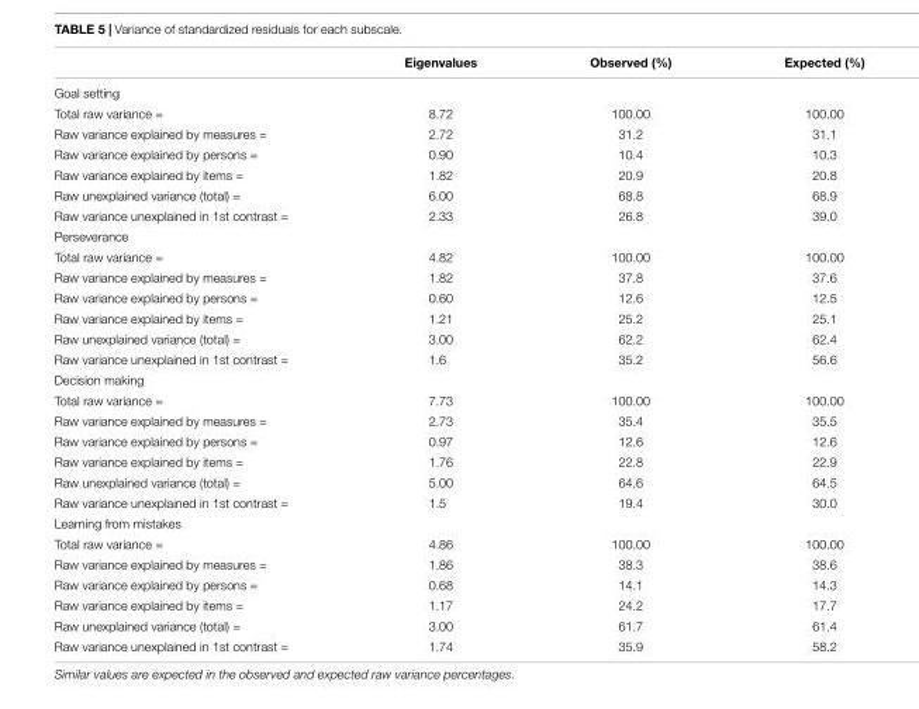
<table><thead><tr><td></td><td>Eigenvalues</td><td>Observed (%)</td><td>Expected (%)</td></tr></thead><tbody><tr><td colspan="4">Goal setting</td></tr><tr><td>Total raw variance =</td><td>8.72</td><td>100.00</td><td>100.00</td></tr><tr><td>Raw variance explained by measures =</td><td>2.72</td><td>31.2</td><td>31.1</td></tr><tr><td>Raw variance explained by persons =</td><td>0.90</td><td>10.4</td><td>10.3</td></tr><tr><td>Raw variance explained by items =</td><td>1.82</td><td>20.9</td><td>20.8</td></tr><tr><td>Raw unexplained variance (total) =</td><td>6.00</td><td>68.8</td><td>68.9</td></tr><tr><td>Raw variance unexplained in 1st contrast =</td><td>2.33</td><td>26.8</td><td>39.0</td></tr><tr><td colspan="4">Perseverance</td></tr><tr><td>Total raw variance =</td><td>4.82</td><td>100.00</td><td>100.00</td></tr><tr><td>Raw variance explained by measures =</td><td>1.82</td><td>37.8</td><td>37.6</td></tr><tr><td>Raw variance explained by persons =</td><td>0.60</td><td>12.6</td><td>12.5</td></tr><tr><td>Raw variance explained by items =</td><td>1.21</td><td>25.2</td><td>25.1</td></tr><tr><td>Raw unexplained variance (total) =</td><td>3.00</td><td>62.2</td><td>62.4</td></tr><tr><td>Raw variance unexplained in 1st contrast =</td><td>1.6</td><td>35.2</td><td>56.6</td></tr><tr><td colspan="4">Decision making</td></tr><tr><td>Total raw variance =</td><td>7.73</td><td>100.00</td><td>100.00</td></tr><tr><td>Raw variance explained by measures =</td><td>2.73</td><td>35.4</td><td>35.5</td></tr><tr><td>Raw variance explained by persons =</td><td>0.97</td><td>12.6</td><td>12.6</td></tr><tr><td>Raw variance explained by items =</td><td>1.76</td><td>22.8</td><td>22.9</td></tr><tr><td>Raw unexplained variance (total) =</td><td>5.00</td><td>64.6</td><td>64.5</td></tr><tr><td>Raw variance unexplained in 1st contrast =</td><td>1.5</td><td>19.4</td><td>30.0</td></tr><tr><td colspan="4">Learning from mistakes</td></tr><tr><td>Total raw variance =</td><td>4.86</td><td>100.00</td><td>100.00</td></tr><tr><td>Raw variance explained by measures =</td><td>1.86</td><td>38.3</td><td>38.6</td></tr><tr><td>Raw variance explained by persons =</td><td>0.68</td><td>14.1</td><td>14.3</td></tr><tr><td>Raw variance explained by items =</td><td>1.17</td><td>24.2</td><td>17.7</td></tr><tr><td>Raw unexplained variance (total) =</td><td>3.00</td><td>61.7</td><td>61.4</td></tr><tr><td>Raw variance unexplained in 1st contrast =</td><td>1.74</td><td>35.9</td><td>58.2</td></tr></tbody></table>